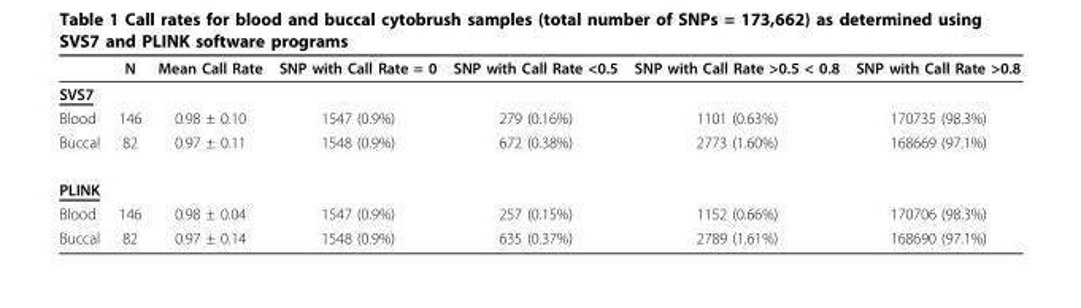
<table><thead><tr><td></td><td>N</td><td>Mean Call Rate</td><td>SNP with Call Rate = 0</td><td>SNP with Call Rate &lt;0.5</td><td>SNP with Call Rate &gt;0.5 &lt; 0.8</td><td>SNP with Call Rate &gt;0.8</td></tr></thead><tbody><tr><td colspan="7">SVS7</td></tr><tr><td>Blood</td><td>146</td><td>0.98 ± 0.10</td><td>1547 (0.9%)</td><td>279 (0.16%)</td><td>1101 (0.63%)</td><td>170735 (98.3%)</td></tr><tr><td>Buccal</td><td>82</td><td>0.97 ± 0.11</td><td>1548 (0.9%)</td><td>672 (0.38%)</td><td>2773 (1.60%)</td><td>168669 (97.1%)</td></tr><tr><td colspan="7">PLINK</td></tr><tr><td>Blood</td><td>146</td><td>0.98 ± 0.04</td><td>1547 (0.9%)</td><td>257 (0.15%)</td><td>1152 (0.66%)</td><td>170706 (98.3%)</td></tr><tr><td>Buccal</td><td>82</td><td>0.97 ± 0.14</td><td>1548 (0.9%)</td><td>635 (0.37%)</td><td>2789 (1.61%)</td><td>168690 (97.1%)</td></tr></tbody></table>